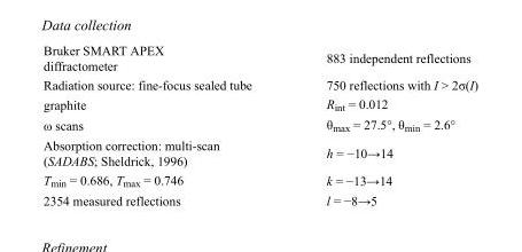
<table><tbody><tr><td>Bruker SMART APEX diffractometer</td><td>883 independent reflections</td></tr><tr><td>Radiation source: fine-focus sealed tube</td><td>750 reflections with I &gt; 2σ(I)</td></tr><tr><td>graphite</td><td>R<sub>int</sub> = 0.012</td></tr><tr><td>ω scans</td><td>θ<sub>max</sub> = 27.5°, θ<sub>min</sub> = 2.6°</td></tr><tr><td>Absorption correction: multi-scan (SADABS; Sheldrick, 1996)</td><td>h = −10→14</td></tr><tr><td>T<sub>min</sub> = 0.686, T<sub>max</sub> = 0.746</td><td>k = −13→14</td></tr><tr><td>2354 measured reflections</td><td>l = −8→5</td></tr></tbody></table>